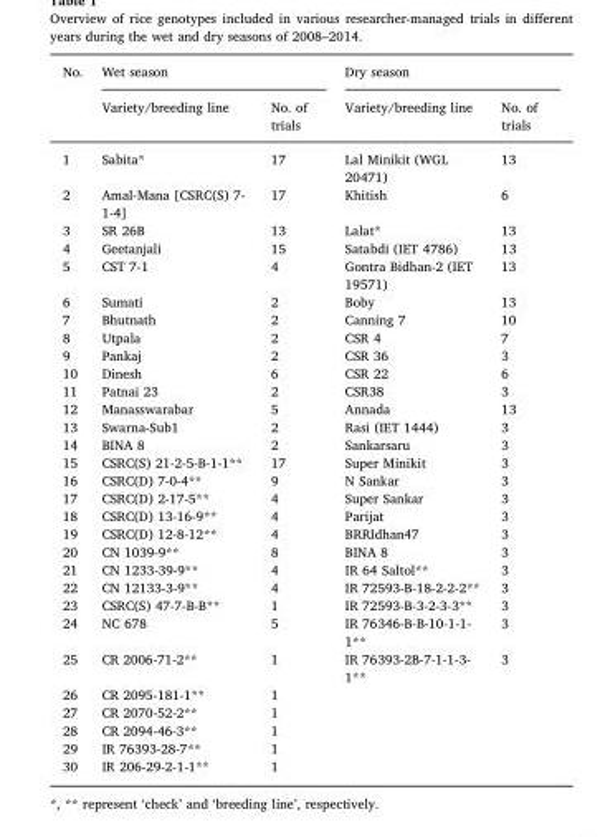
<table><thead><tr><td rowspan="2">No.</td><td colspan="2">Wet season</td><td colspan="2">Dry season</td></tr><tr><td>Variety/breeding line</td><td>No. of trials</td><td>Variety/breeding line</td><td>No. of trials</td></tr></thead><tbody><tr><td>1</td><td>Sabita*</td><td>17</td><td>Lal Minikit (WGL 20471)</td><td>13</td></tr><tr><td>2</td><td>Amal-Mana [CSRC(S) 7- 1-4]</td><td>17</td><td>Khitish</td><td>6</td></tr><tr><td>3</td><td>SR 26B</td><td>13</td><td>Lalat*</td><td>13</td></tr><tr><td>4</td><td>Geetanjali</td><td>15</td><td>Satabdi (IET 4786)</td><td>13</td></tr><tr><td>5</td><td>CST 7-1</td><td>4</td><td>Gontra Bidhan-2 (IET 19571)</td><td>13</td></tr><tr><td>6</td><td>Sumati</td><td>2</td><td>Boby</td><td>13</td></tr><tr><td>7</td><td>Bhutnath</td><td>2</td><td>Canning 7</td><td>10</td></tr><tr><td>8</td><td>Utpala</td><td>2</td><td>CSR 4</td><td>7</td></tr><tr><td>9</td><td>Pankaj</td><td>2</td><td>CSR 36</td><td>3</td></tr><tr><td>10</td><td>Dinesh</td><td>6</td><td>CSR 22</td><td>6</td></tr><tr><td>11</td><td>Patnai 23</td><td>2</td><td>CSR38</td><td>3</td></tr><tr><td>12</td><td>Manasswarabar</td><td>5</td><td>Annada</td><td>13</td></tr><tr><td>13</td><td>Swarna-Sub1</td><td>2</td><td>Rasi (IET 1444)</td><td>3</td></tr><tr><td>14</td><td>BINA 8</td><td>2</td><td>Sankarsaru</td><td>3</td></tr><tr><td>15</td><td>CSRC(S) 21-2-5-B-1-1**</td><td>17</td><td>Super Minikit</td><td>3</td></tr><tr><td>16</td><td>CSRC(D) 7-0-4**</td><td>9</td><td>N Sankar</td><td>3</td></tr><tr><td>17</td><td>CSRC(D) 2-17-5**</td><td>4</td><td>Super Sankar</td><td>3</td></tr><tr><td>18</td><td>CSRC(D) 13-16-9**</td><td>4</td><td>Parijat</td><td>3</td></tr><tr><td>19</td><td>CSRC(D) 12-8-12**</td><td>4</td><td>BRRIdhan47</td><td>3</td></tr><tr><td>20</td><td>CN 1039-9**</td><td>8</td><td>BINA 8</td><td>3</td></tr><tr><td>21</td><td>CN 1233-39-9**</td><td>4</td><td>IR 64 Saltol**</td><td>3</td></tr><tr><td>22</td><td>CN 12133-3-9**</td><td>4</td><td>IR 72593-B-18-2-2-2**</td><td>3</td></tr><tr><td>23</td><td>CSRC(S) 47-7-B-B**</td><td>1</td><td>IR 72593-B-3-2-3-3**</td><td>3</td></tr><tr><td>24</td><td>NC 678</td><td>5</td><td>IR 76346-B-B-10-1-1- 1**</td><td>3</td></tr><tr><td>25</td><td>CR 2006-71-2**</td><td>1</td><td>IR 76393-2B-7-1-1-3- 1**</td><td>3</td></tr><tr><td>26</td><td>CR 2095-181-1**</td><td>1</td><td></td><td></td></tr><tr><td>27</td><td>CR 2070-52-2**</td><td>1</td><td></td><td></td></tr><tr><td>28</td><td>CR 2094-46-3**</td><td>1</td><td></td><td></td></tr><tr><td>29</td><td>IR 76393-28-7**</td><td>1</td><td></td><td></td></tr><tr><td>30</td><td>IR 206-29-2-1-1**</td><td>1</td><td></td><td></td></tr></tbody></table>